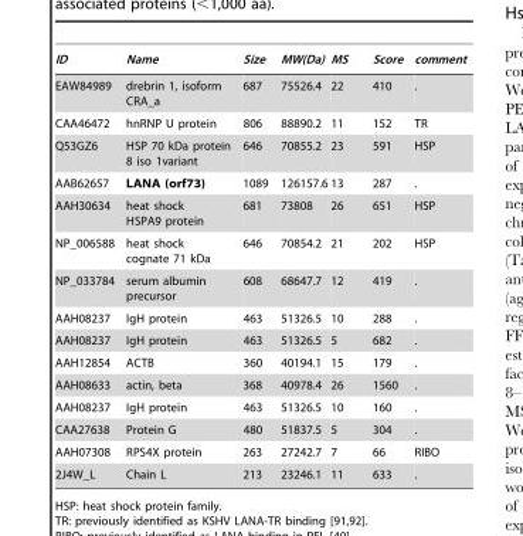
<table><thead><tr><td>ID</td><td>Name</td><td>Size</td><td>MW(Da)</td><td>MS</td><td>Score</td><td>comment</td></tr></thead><tbody><tr><td>EAW84989</td><td>drebrin 1, isoform CRA_a</td><td>687</td><td>75526.4</td><td>22</td><td>410</td><td>.</td></tr><tr><td>CAA46472</td><td>hnRNP U protein</td><td>806</td><td>88890.2</td><td>11</td><td>152</td><td>TR</td></tr><tr><td>Q53GZ6</td><td>HSP 70 kDa protein 8 iso 1variant</td><td>646</td><td>70855.2</td><td>23</td><td>591</td><td>HSP</td></tr><tr><td>AAB62657</td><td>LANA (orf73)</td><td>1089</td><td>126157.6</td><td>13</td><td>287</td><td>.</td></tr><tr><td>AAH30634</td><td>heat shock HSPA9 protein</td><td>681</td><td>73808</td><td>26</td><td>651</td><td>HSP</td></tr><tr><td>NP_006588</td><td>heat shock cognate 71 kDa</td><td>646</td><td>70854.2</td><td>21</td><td>202</td><td>HSP</td></tr><tr><td>NP_033784</td><td>serum albumin precursor</td><td>608</td><td>68647.7</td><td>12</td><td>419</td><td>.</td></tr><tr><td>AAH08237</td><td>IgH protein</td><td>463</td><td>51326.5</td><td>10</td><td>288</td><td>.</td></tr><tr><td>AAH08237</td><td>IgH protein</td><td>463</td><td>51326.5</td><td>5</td><td>682</td><td>.</td></tr><tr><td>AAH12854</td><td>ACTB</td><td>360</td><td>40194.1</td><td>15</td><td>179</td><td>.</td></tr><tr><td>AAH08633</td><td>actin, beta</td><td>368</td><td>40978.4</td><td>26</td><td>1560</td><td>.</td></tr><tr><td>AAH08237</td><td>IgH protein</td><td>463</td><td>51326.5</td><td>10</td><td>160</td><td>.</td></tr><tr><td>CAA27638</td><td>Protein G</td><td>480</td><td>51837.5</td><td>5</td><td>304</td><td>.</td></tr><tr><td>AAH07308</td><td>RPS4X protein</td><td>263</td><td>27242.7</td><td>7</td><td>66</td><td>RIBO</td></tr><tr><td>2J4W_L</td><td>Chain L</td><td>213</td><td>23246.1</td><td>11</td><td>633</td><td>.</td></tr></tbody></table>